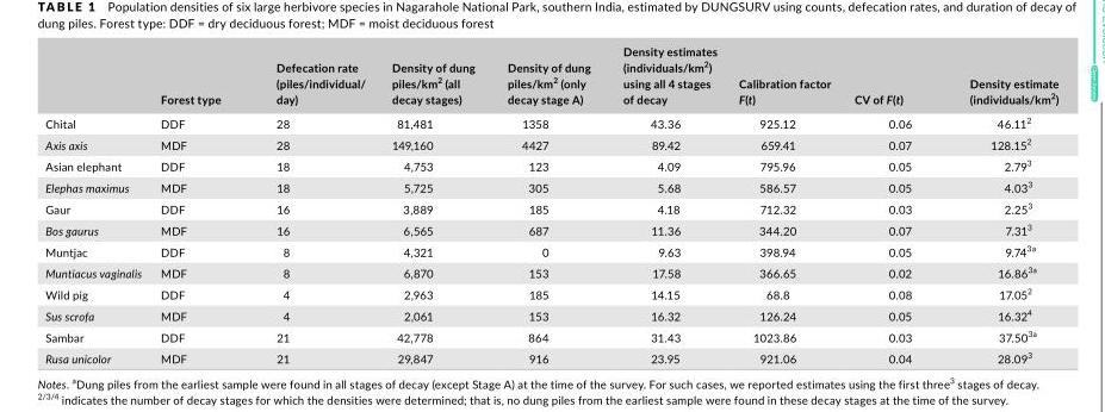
<table><thead><tr><td></td><td>Forest type</td><td>Defecation rate (piles/individual/ day)</td><td>Density of dung piles/km<sup>2</sup> (all decay stages)</td><td>Density of dung piles/km<sup>2</sup> (only decay stage A)</td><td>Density estimates (individuals/km<sup>2</sup>) using all 4 stages of decay</td><td>Calibration factor F(t)</td><td>CV of F(t)</td><td>Density estimate (individuals/km<sup>2</sup>)</td></tr></thead><tbody><tr><td>Chital</td><td>DDF</td><td>28</td><td>81,481</td><td>1358</td><td>43.36</td><td>925.12</td><td>0.06</td><td>46.11<sup>2</sup></td></tr><tr><td>Axis axis</td><td>MDF</td><td>28</td><td>149,160</td><td>4427</td><td>89.42</td><td>659.41</td><td>0.07</td><td>128.15<sup>2</sup></td></tr><tr><td>Asian elephant</td><td>DDF</td><td>18</td><td>4,753</td><td>123</td><td>4.09</td><td>795.96</td><td>0.05</td><td>2.79<sup>3</sup></td></tr><tr><td>Elephas maximus</td><td>MDF</td><td>18</td><td>5,725</td><td>305</td><td>5.68</td><td>586.57</td><td>0.05</td><td>4.03<sup>3</sup></td></tr><tr><td>Gaur</td><td>DDF</td><td>16</td><td>3,889</td><td>185</td><td>4.18</td><td>712.32</td><td>0.03</td><td>2.25<sup>3</sup></td></tr><tr><td>Bos gaurus</td><td>MDF</td><td>16</td><td>6,565</td><td>687</td><td>11.36</td><td>344.20</td><td>0.07</td><td>7.31<sup>3</sup></td></tr><tr><td>Muntjac</td><td>DDF</td><td>8</td><td>4,321</td><td>0</td><td>9.63</td><td>398.94</td><td>0.05</td><td>9.74<sup>3</sup>a</td></tr><tr><td>Muntiacus vaginalis</td><td>MDF</td><td>8</td><td>6,870</td><td>153</td><td>17.58</td><td>366.65</td><td>0.02</td><td>16.86<sup>3</sup>a</td></tr><tr><td>Wild pig</td><td>DDF</td><td>4</td><td>2,963</td><td>185</td><td>14.15</td><td>68.8</td><td>0.08</td><td>17.05<sup>2</sup></td></tr><tr><td>Sus scrofa</td><td>MDF</td><td>4</td><td>2,061</td><td>153</td><td>16.32</td><td>126.24</td><td>0.05</td><td>16.32<sup>4</sup></td></tr><tr><td>Sambar</td><td>DDF</td><td>21</td><td>42,778</td><td>864</td><td>31.43</td><td>1023.86</td><td>0.03</td><td>37.50<sup>3</sup>a</td></tr><tr><td>Rusa unicolor</td><td>MDF</td><td>21</td><td>29,847</td><td>916</td><td>23.95</td><td>921.06</td><td>0.04</td><td>28.09<sup>3</sup></td></tr></tbody></table>